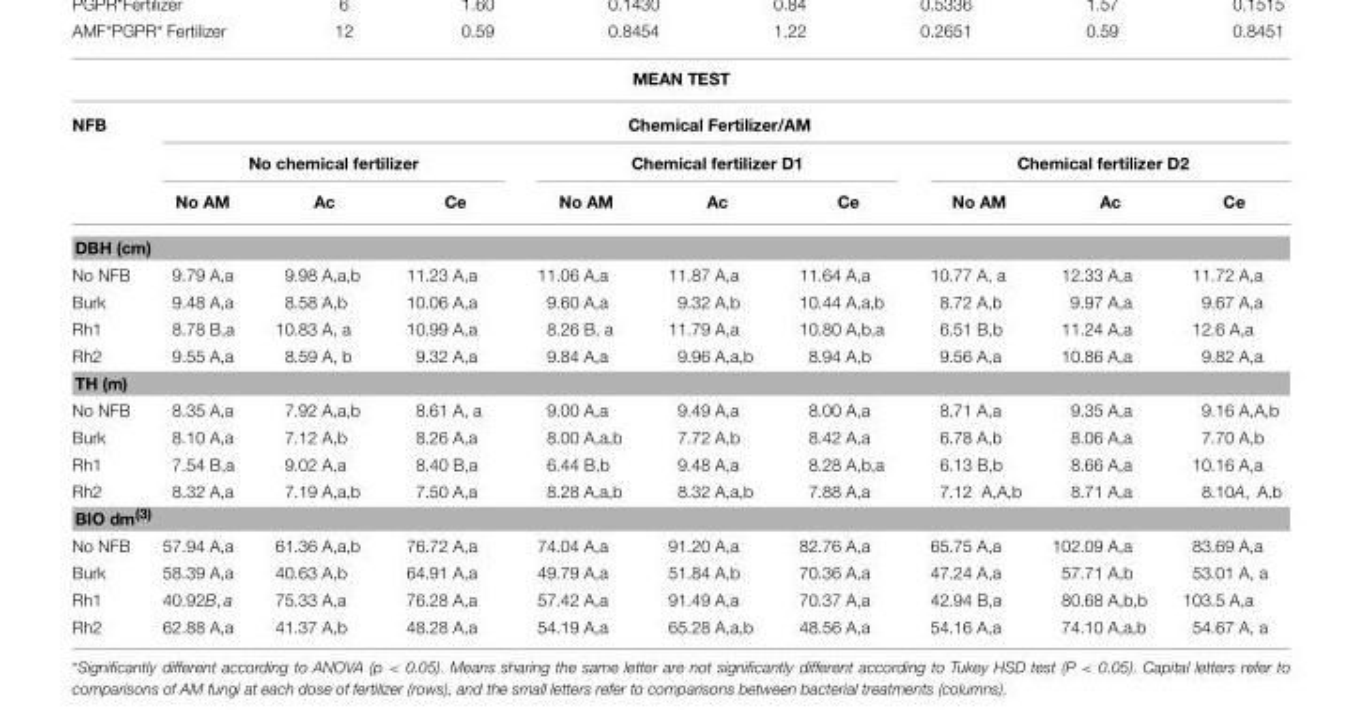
<table><thead><tr><td colspan="10">MEAN TEST</td></tr><tr><td rowspan="3">NFB</td><td colspan="9">Chemical Fertilizer/AM</td></tr><tr><td colspan="3">No chemical fertilizer</td><td colspan="3">Chemical fertilizer D1</td><td colspan="3">Chemical fertilizer D2</td></tr><tr><td>No AM</td><td>Ac</td><td>Ce</td><td>No AM</td><td>Ac</td><td>Ce</td><td>No AM</td><td>Ac</td><td>Ce</td></tr></thead><tbody><tr><td colspan="10">DBH (cm)</td></tr><tr><td>No NFB</td><td>9.79 A,a</td><td>9.98 A,a,b</td><td>11.23 A,a</td><td>11.06 A,a</td><td>11.87 A,a</td><td>11.64 A,a</td><td>10.77 A, a</td><td>12.33 A,a</td><td>11.72 A,a</td></tr><tr><td>Burk</td><td>9.48 A,a</td><td>8.58 A,b</td><td>10.06 A,a</td><td>9.60 A,a</td><td>9.32 A,b</td><td>10.44 A,a,b</td><td>8.72 A,b</td><td>9.97 A,a</td><td>9.67 A,a</td></tr><tr><td>Rh1</td><td>8.78 B,a</td><td>10.83 A, a</td><td>10.99 A,a</td><td>8.26 B, a</td><td>11.79 A,a</td><td>10.80 A,b,a</td><td>6.51 B,b</td><td>11.24 A,a</td><td>12.6 A,a</td></tr><tr><td>Rh2</td><td>9.55 A,a</td><td>8.59 A, b</td><td>9.32 A,a</td><td>9.84 A,a</td><td>9.96 A,a,b</td><td>8.94 A,b</td><td>9.56 A,a</td><td>10.86 A,a</td><td>9.82 A,a</td></tr><tr><td colspan="10">TH (m)</td></tr><tr><td>No NFB</td><td>8.35 A,a</td><td>7.92 A,a,b</td><td>8.61 A, a</td><td>9.00 A,a</td><td>9.49 A,a</td><td>8.00 A,a</td><td>8.71 A,a</td><td>9.35 A,a</td><td>9.16 A,A,b</td></tr><tr><td>Burk</td><td>8.10 A,a</td><td>7.12 A,b</td><td>8.26 A,a</td><td>8.00 A,a,b</td><td>7.72 A,b</td><td>8.42 A,a</td><td>6.78 A,b</td><td>8.06 A,a</td><td>7.70 A,b</td></tr><tr><td>Rh1</td><td>7.54 B,a</td><td>9.02 A,a</td><td>8.40 B,a</td><td>6.44 B,b</td><td>9.48 A,a</td><td>8.28 A,b,a</td><td>6.13 B,b</td><td>8.66 A,a</td><td>10.16 A,a</td></tr><tr><td>Rh2</td><td>8.32 A,a</td><td>7.19 A,a,b</td><td>7.50 A,a</td><td>8.28 A,a,b</td><td>8.32 A,a,b</td><td>7.88 A,a</td><td>7.12 A,A,b</td><td>8.71 A,a</td><td>8.10A, A,b</td></tr><tr><td colspan="10">BIO dm<sup>(3)</sup></td></tr><tr><td>No NFB</td><td>57.94 A,a</td><td>61.36 A,a,b</td><td>76.72 A,a</td><td>74.04 A,a</td><td>91.20 A,a</td><td>82.76 A,a</td><td>65.75 A,a</td><td>102.09 A,a</td><td>83.69 A,a</td></tr><tr><td>Burk</td><td>58.39 A,a</td><td>40.63 A,b</td><td>64.91 A,a</td><td>49.79 A,a</td><td>51.84 A,b</td><td>70.36 A,a</td><td>47.24 A,a</td><td>57.71 A,b</td><td>53.01 A, a</td></tr><tr><td>Rh1</td><td>40.92B, a</td><td>75.33 A,a</td><td>76.28 A,a</td><td>57.42 A,a</td><td>91.49 A,a</td><td>70.37 A,a</td><td>42.94 B,a</td><td>80.68 A,b,b</td><td>103.5 A,a</td></tr><tr><td>Rh2</td><td>62.88 A,a</td><td>41.37 A,b</td><td>48.28 A,a</td><td>54.19 A,a</td><td>65.28 A,a,b</td><td>48.56 A,a</td><td>54.16 A,a</td><td>74.10 A,a,b</td><td>54.67 A, a</td></tr></tbody></table>